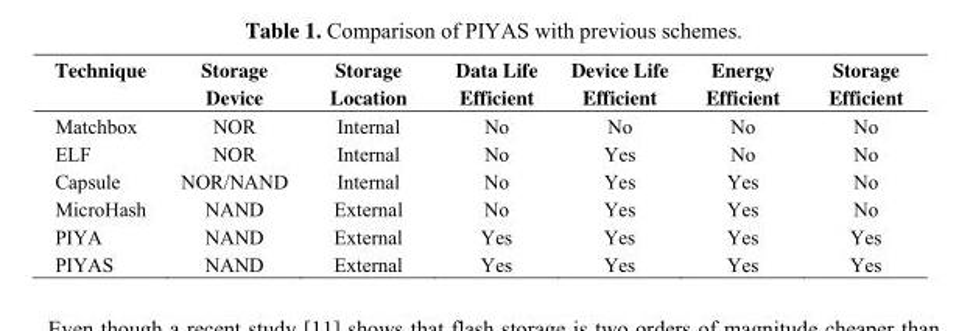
<table><thead><tr><td>Technique</td><td>Storage Device</td><td>Storage Location</td><td>Data Life Efficient</td><td>Device Life Efficient</td><td>Energy Efficient</td><td>Storage Efficient</td></tr></thead><tbody><tr><td>Matchbox</td><td>NOR</td><td>Internal</td><td>No</td><td>No</td><td>No</td><td>No</td></tr><tr><td>ELF</td><td>NOR</td><td>Internal</td><td>No</td><td>Yes</td><td>No</td><td>No</td></tr><tr><td>Capsule</td><td>NOR/NAND</td><td>Internal</td><td>No</td><td>Yes</td><td>Yes</td><td>No</td></tr><tr><td>MicroHash</td><td>NAND</td><td>External</td><td>No</td><td>Yes</td><td>Yes</td><td>No</td></tr><tr><td>PIYA</td><td>NAND</td><td>External</td><td>Yes</td><td>Yes</td><td>Yes</td><td>Yes</td></tr><tr><td>PIYAS</td><td>NAND</td><td>External</td><td>Yes</td><td>Yes</td><td>Yes</td><td>Yes</td></tr></tbody></table>